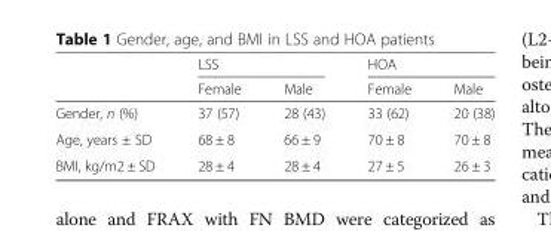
<table><thead><tr><td rowspan="2"></td><td colspan="2">LSS</td><td colspan="2">HOA</td></tr><tr><td>Female</td><td>Male</td><td>Female</td><td>Male</td></tr></thead><tbody><tr><td>Gender, n (%)</td><td>37 (57)</td><td>28 (43)</td><td>33 (62)</td><td>20 (38)</td></tr><tr><td>Age, years ± SD</td><td>68 ± 8</td><td>66 ± 9</td><td>70 ± 8</td><td>70 ± 8</td></tr><tr><td>BMI, kg/m2 ± SD</td><td>28 ± 4</td><td>28 ± 4</td><td>27 ± 5</td><td>26 ± 3</td></tr></tbody></table>